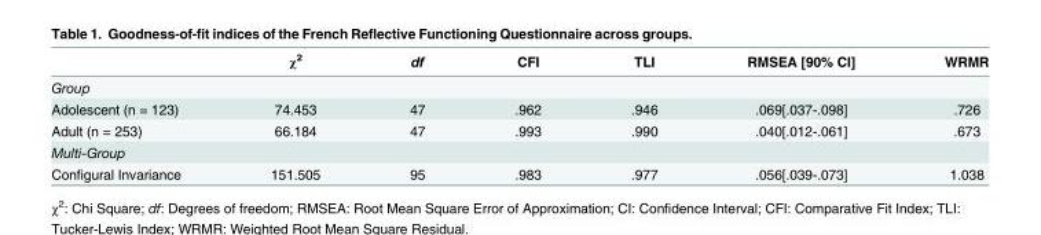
<table><thead><tr><td></td><td>χ<sup>2</sup></td><td>df</td><td>CFI</td><td>TLI</td><td>RMSEA [90% CI]</td><td>WRMR</td></tr></thead><tbody><tr><td colspan="7">Group</td></tr><tr><td>Adolescent (n = 123)</td><td>74.453</td><td>47</td><td>.962</td><td>.946</td><td>.069[.037-.098]</td><td>.726</td></tr><tr><td>Adult (n = 253)</td><td>66.184</td><td>47</td><td>.993</td><td>.990</td><td>.040[.012-.061]</td><td>.673</td></tr><tr><td colspan="7">Multi-Group</td></tr><tr><td>Configural Invariance</td><td>151.505</td><td>95</td><td>.983</td><td>.977</td><td>.056[.039-.073]</td><td>1.038</td></tr></tbody></table>